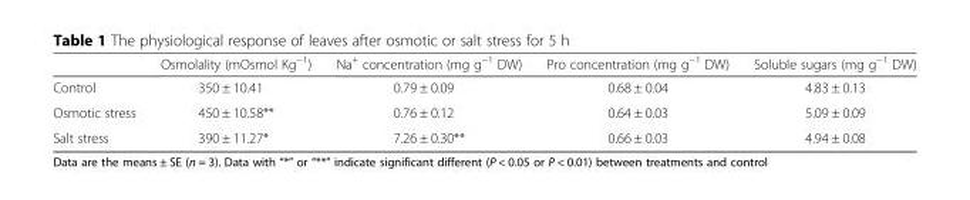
<table><thead><tr><td></td><td>Osmolality (mOsmol Kg<sup>−1</sup>)</td><td>Na<sup>+</sup> concentration (mg g<sup>−1</sup> DW)</td><td>Pro concentration (mg g<sup>−1</sup> DW)</td><td>Soluble sugars (mg g<sup>−1</sup> DW)</td></tr></thead><tbody><tr><td>Control</td><td>350 ± 10.41</td><td>0.79 ± 0.09</td><td>0.68 ± 0.04</td><td>4.83 ± 0.13</td></tr><tr><td>Osmotic stress</td><td>450 ± 10.58**</td><td>0.76 ± 0.12</td><td>0.64 ± 0.03</td><td>5.09 ± 0.09</td></tr><tr><td>Salt stress</td><td>390 ± 11.27*</td><td>7.26 ± 0.30**</td><td>0.66 ± 0.03</td><td>4.94 ± 0.08</td></tr></tbody></table>